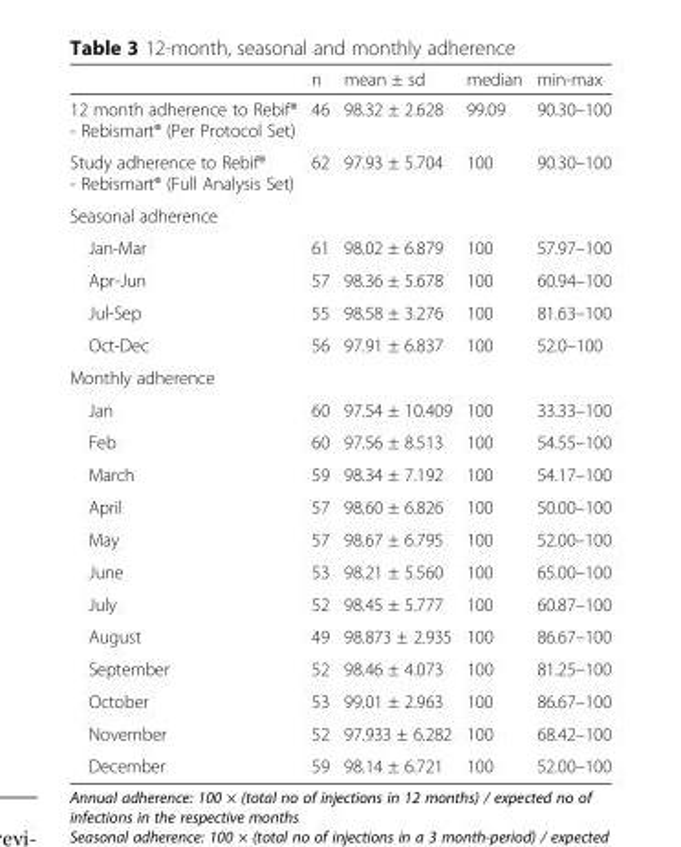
<table><thead><tr><td></td><td>n</td><td>mean ± sd</td><td>median</td><td>min-max</td></tr></thead><tbody><tr><td>12 month adherence to Rebif® - Rebismart® (Per Protocol Set)</td><td>46</td><td>98.32 ± 2.628</td><td>99.09</td><td>90.30–100</td></tr><tr><td>Study adherence to Rebif® - Rebismart® (Full Analysis Set)</td><td>62</td><td>97.93 ± 5.704</td><td>100</td><td>90.30–100</td></tr><tr><td colspan="5">Seasonal adherence</td></tr><tr><td>Jan-Mar</td><td>61</td><td>98.02 ± 6.879</td><td>100</td><td>57.97–100</td></tr><tr><td>Apr-Jun</td><td>57</td><td>98.36 ± 5.678</td><td>100</td><td>60.94–100</td></tr><tr><td>Jul-Sep</td><td>55</td><td>98.58 ± 3.276</td><td>100</td><td>81.63–100</td></tr><tr><td>Oct-Dec</td><td>56</td><td>97.91 ± 6.837</td><td>100</td><td>52.0–100</td></tr><tr><td colspan="5">Monthly adherence</td></tr><tr><td>Jan</td><td>60</td><td>97.54 ± 10.409</td><td>100</td><td>33.33–100</td></tr><tr><td>Feb</td><td>60</td><td>97.56 ± 8.513</td><td>100</td><td>54.55–100</td></tr><tr><td>March</td><td>59</td><td>98.34 ± 7.192</td><td>100</td><td>54.17–100</td></tr><tr><td>April</td><td>57</td><td>98.60 ± 6.826</td><td>100</td><td>50.00–100</td></tr><tr><td>May</td><td>57</td><td>98.67 ± 6.795</td><td>100</td><td>52.00–100</td></tr><tr><td>June</td><td>53</td><td>98.21 ± 5.560</td><td>100</td><td>65.00–100</td></tr><tr><td>July</td><td>52</td><td>98.45 ± 5.777</td><td>100</td><td>60.87–100</td></tr><tr><td>August</td><td>49</td><td>98.873 ± 2.935</td><td>100</td><td>86.67–100</td></tr><tr><td>September</td><td>52</td><td>98.46 ± 4.073</td><td>100</td><td>81.25–100</td></tr><tr><td>October</td><td>53</td><td>99.01 ± 2.963</td><td>100</td><td>86.67–100</td></tr><tr><td>November</td><td>52</td><td>97.933 ± 6.282</td><td>100</td><td>68.42–100</td></tr><tr><td>December</td><td>59</td><td>98.14 ± 6.721</td><td>100</td><td>52.00–100</td></tr></tbody></table>